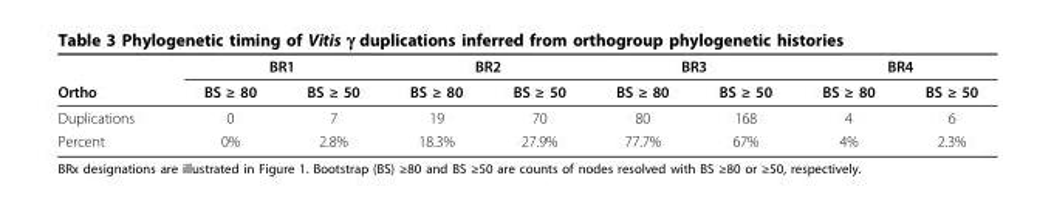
<table><thead><tr><td rowspan="2">Ortho</td><td colspan="2">BR1</td><td colspan="2">BR2</td><td colspan="2">BR3</td><td colspan="2">BR4</td></tr><tr><td>BS ≥ 80</td><td>BS ≥ 50</td><td>BS ≥ 80</td><td>BS ≥ 50</td><td>BS ≥ 80</td><td>BS ≥ 50</td><td>BS ≥ 80</td><td>BS ≥ 50</td></tr></thead><tbody><tr><td>Duplications</td><td>0</td><td>7</td><td>19</td><td>70</td><td>80</td><td>168</td><td>4</td><td>6</td></tr><tr><td>Percent</td><td>0%</td><td>2.8%</td><td>18.3%</td><td>27.9%</td><td>77.7%</td><td>67%</td><td>4%</td><td>2.3%</td></tr></tbody></table>